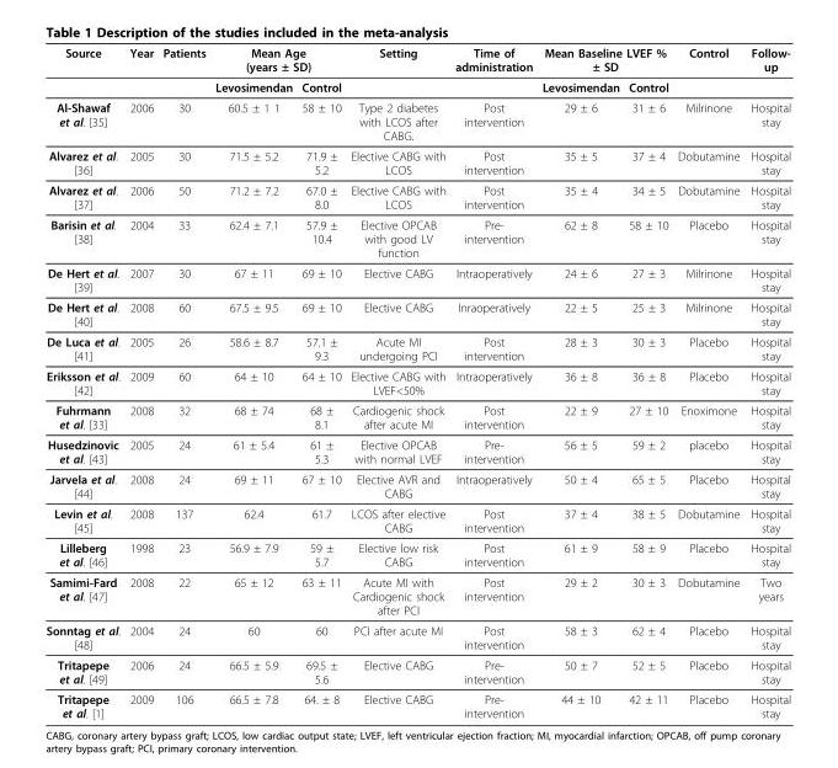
<table><thead><tr><td rowspan="2">Source</td><td rowspan="2">Year</td><td rowspan="2">Patients</td><td colspan="2">Mean Age (years ± SD)</td><td rowspan="2">Setting</td><td rowspan="2">Time of administration</td><td colspan="2">Mean Baseline LVEF % ± SD</td><td rowspan="2">Control</td><td rowspan="2">Follow- up</td></tr><tr><td>Levosimendan</td><td>Control</td><td>Levosimendan</td><td>Control</td></tr></thead><tbody><tr><td>Al-Shawaf et al. [35]</td><td>2006</td><td>30</td><td>60.5 ± 1 1</td><td>58 ± 10</td><td>Type 2 diabetes with LCOS after CABG.</td><td>Post intervention</td><td>29 ± 6</td><td>31 ± 6</td><td>Milrinone</td><td>Hospital stay</td></tr><tr><td>Alvarez et al. [36]</td><td>2005</td><td>30</td><td>71.5 ± 5.2</td><td>71.9 ± 5.2</td><td>Elective CABG with LCOS</td><td>Post intervention</td><td>35 ± 5</td><td>37 ± 4</td><td>Dobutamine</td><td>Hospital stay</td></tr><tr><td>Alvarez et al. [37]</td><td>2006</td><td>50</td><td>71.2 ± 7.2</td><td>67.0 ± 8.0</td><td>Elective CABG with LCOS</td><td>Post intervention</td><td>35 ± 4</td><td>34 ± 5</td><td>Dobutamine</td><td>Hospital stay</td></tr><tr><td>Barisin et al. [38]</td><td>2004</td><td>33</td><td>62.4 ± 7.1</td><td>57.9 ± 10.4</td><td>Elective OPCAB with good LV function</td><td>Pre- intervention</td><td>62 ± 8</td><td>58 ± 10</td><td>Placebo</td><td>Hospital stay</td></tr><tr><td>De Hert et al. [39]</td><td>2007</td><td>30</td><td>67 ± 11</td><td>69 ± 10</td><td>Elective CABG</td><td>Intraoperatively</td><td>24 ± 6</td><td>27 ± 3</td><td>Milrinone</td><td>Hospital stay</td></tr><tr><td>De Hert et al. [40]</td><td>2008</td><td>60</td><td>67.5 ± 9.5</td><td>69 ± 10</td><td>Elective CABG</td><td>Inraoperatively</td><td>22 ± 5</td><td>25 ± 3</td><td>Milrinone</td><td>Hospital stay</td></tr><tr><td>De Luca et al. [41]</td><td>2005</td><td>26</td><td>58.6 ± 8.7</td><td>57.1 ± 9.3</td><td>Acute MI undergoing PCI</td><td>Post intervention</td><td>28 ± 3</td><td>30 ± 3</td><td>Placebo</td><td>Hospital stay</td></tr><tr><td>Eriksson et al. [42]</td><td>2009</td><td>60</td><td>64 ± 10</td><td>64 ± 10</td><td>Elective CABG with LVEF&lt;50%</td><td>Intraoperatively</td><td>36 ± 8</td><td>36 ± 8</td><td>Placebo</td><td>Hospital stay</td></tr><tr><td>Fuhrmann et al. [33]</td><td>2008</td><td>32</td><td>68 ± 74</td><td>68 ± 8.1</td><td>Cardiogenic shock after acute MI</td><td>Post intervention</td><td>22 ± 9</td><td>27 ± 10</td><td>Enoximone</td><td>Hospital stay</td></tr><tr><td>Husedzinovic et al. [43]</td><td>2005</td><td>24</td><td>61 ± 5.4</td><td>61 ± 5.3</td><td>Elective OPCAB with normal LVEF</td><td>Pre- intervention</td><td>56 ± 5</td><td>59 ± 2</td><td>placebo</td><td>Hospital stay</td></tr><tr><td>Jarvela et al. [44]</td><td>2008</td><td>24</td><td>69 ± 11</td><td>67 ± 10</td><td>Elective AVR and CABG</td><td>Intraoperatively</td><td>50 ± 4</td><td>65 ± 5</td><td>Placebo</td><td>Hospital stay</td></tr><tr><td>Levin et al. [45]</td><td>2008</td><td>137</td><td>62.4</td><td>61.7</td><td>LCOS after elective CABG</td><td>Post intervention</td><td>37 ± 4</td><td>38 ± 5</td><td>Dobutamine</td><td>Hospital stay</td></tr><tr><td>Lilleberg et al. [46]</td><td>1998</td><td>23</td><td>56.9 ± 7.9</td><td>59 ± 5.7</td><td>Elective low risk CABG</td><td>Post intervention</td><td>61 ± 9</td><td>58 ± 9</td><td>Placebo</td><td>Hospital stay</td></tr><tr><td>Samimi-Fard et al. [47]</td><td>2008</td><td>22</td><td>65 ± 12</td><td>63 ± 11</td><td>Acute MI with Cardiogenic shock after PCI</td><td>Post intervention</td><td>29 ± 2</td><td>30 ± 3</td><td>Dobutamine</td><td>Two years</td></tr><tr><td>Sonntag et al. [48]</td><td>2004</td><td>24</td><td>60</td><td>60</td><td>PCI after acute MI</td><td>Post intervention</td><td>58 ± 3</td><td>62 ± 4</td><td>Placebo</td><td>Hospital stay</td></tr><tr><td>Tritapepe et al. [49]</td><td>2006</td><td>24</td><td>66.5 ± 5.9</td><td>69.5 ± 5.6</td><td>Elective CABG</td><td>Pre- intervention</td><td>50 ± 7</td><td>52 ± 5</td><td>Placebo</td><td>Hospital stay</td></tr><tr><td>Tritapepe et al. [1]</td><td>2009</td><td>106</td><td>66.5 ± 7.8</td><td>64. ± 8</td><td>Elective CABG</td><td>Pre- intervention</td><td>44 ± 10</td><td>42 ± 11</td><td>Placebo</td><td>Hospital stay</td></tr></tbody></table>